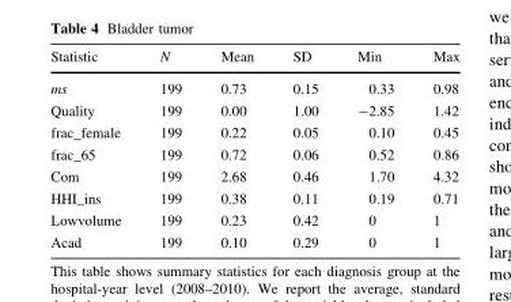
<table><thead><tr><td>Statistic</td><td>N</td><td>Mean</td><td>SD</td><td>Min</td><td>Max</td></tr></thead><tbody><tr><td>ms</td><td>199</td><td>0.73</td><td>0.15</td><td>0.33</td><td>0.98</td></tr><tr><td>Quality</td><td>199</td><td>0.00</td><td>1.00</td><td>-2.85</td><td>1.42</td></tr><tr><td>frac_female</td><td>199</td><td>0.22</td><td>0.05</td><td>0.10</td><td>0.45</td></tr><tr><td>frac_65</td><td>199</td><td>0.72</td><td>0.06</td><td>0.52</td><td>0.86</td></tr><tr><td>Com</td><td>199</td><td>2.68</td><td>0.46</td><td>1.70</td><td>4.32</td></tr><tr><td>HHI_ins</td><td>199</td><td>0.38</td><td>0.11</td><td>0.19</td><td>0.71</td></tr><tr><td>Lowvolume</td><td>199</td><td>0.23</td><td>0.42</td><td>0</td><td>1</td></tr><tr><td>Acad</td><td>199</td><td>0.10</td><td>0.29</td><td>0</td><td>1</td></tr></tbody></table>